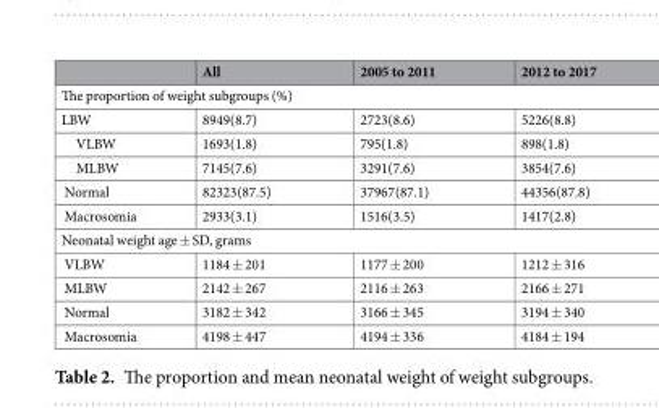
<table><thead><tr><td></td><td>All</td><td>2005 to 2011</td><td>2012 to 2017</td></tr></thead><tbody><tr><td colspan="4">The proportion of weight subgroups (%)</td></tr><tr><td>LBW</td><td>8949(8.7)</td><td>2723(8.6)</td><td>5226(8.8)</td></tr><tr><td>VLBW</td><td>1693(1.8)</td><td>795(1.8)</td><td>898(1.8)</td></tr><tr><td>MLBW</td><td>7145(7.6)</td><td>3291(7.6)</td><td>3854(7.6)</td></tr><tr><td>Normal</td><td>82323(87.5)</td><td>37967(87.1)</td><td>44356(87.8)</td></tr><tr><td>Macrosomia</td><td>2933(3.1)</td><td>1516(3.5)</td><td>1417(2.8)</td></tr><tr><td colspan="4">Neonatal weight age ± SD, grams</td></tr><tr><td>VLBW</td><td>1184 ± 201</td><td>1177 ± 200</td><td>1212 ± 316</td></tr><tr><td>MLBW</td><td>2142 ± 267</td><td>2116 ± 263</td><td>2166 ± 271</td></tr><tr><td>Normal</td><td>3182 ± 342</td><td>3166 ± 345</td><td>3194 ± 340</td></tr><tr><td>Macrosomia</td><td>4198 ± 447</td><td>4194 ± 336</td><td>4184 ± 194</td></tr></tbody></table>